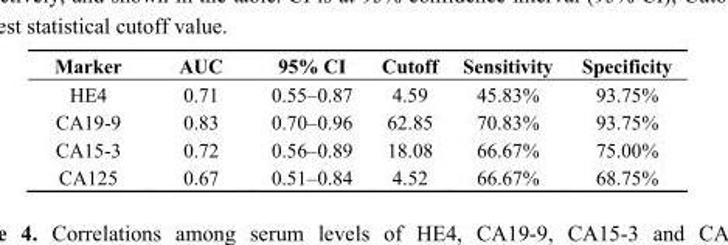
<table><thead><tr><td>Marker</td><td>AUC</td><td>95% CI</td><td>Cutoff</td><td>Sensitivity</td><td>Specificity</td></tr></thead><tbody><tr><td>HE4</td><td>0.71</td><td>0.55–0.87</td><td>4.59</td><td>45.83%</td><td>93.75%</td></tr><tr><td>CA19-9</td><td>0.83</td><td>0.70–0.96</td><td>62.85</td><td>70.83%</td><td>93.75%</td></tr><tr><td>CA15-3</td><td>0.72</td><td>0.56–0.89</td><td>18.08</td><td>66.67%</td><td>75.00%</td></tr><tr><td>CA125</td><td>0.67</td><td>0.51–0.84</td><td>4.52</td><td>66.67%</td><td>68.75%</td></tr></tbody></table>